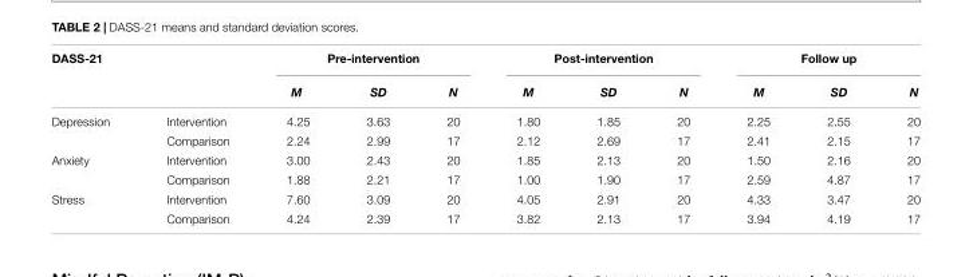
<table><thead><tr><td colspan="2">DASS-21</td><td colspan="3">Pre-intervention</td><td colspan="3">Post-intervention</td><td colspan="3">Follow up</td></tr><tr><td></td><td></td><td>M</td><td>SD</td><td>N</td><td>M</td><td>SD</td><td>N</td><td>M</td><td>SD</td><td>N</td></tr></thead><tbody><tr><td rowspan="2">Depression</td><td>Intervention</td><td>4.25</td><td>3.63</td><td>20</td><td>1.80</td><td>1.85</td><td>20</td><td>2.25</td><td>2.55</td><td>20</td></tr><tr><td>Comparison</td><td>2.24</td><td>2.99</td><td>17</td><td>2.12</td><td>2.69</td><td>17</td><td>2.41</td><td>2.15</td><td>17</td></tr><tr><td rowspan="2">Anxiety</td><td>Intervention</td><td>3.00</td><td>2.43</td><td>20</td><td>1.85</td><td>2.13</td><td>20</td><td>1.50</td><td>2.16</td><td>20</td></tr><tr><td>Comparison</td><td>1.88</td><td>2.21</td><td>17</td><td>1.00</td><td>1.90</td><td>17</td><td>2.59</td><td>4.87</td><td>17</td></tr><tr><td rowspan="2">Stress</td><td>Intervention</td><td>7.60</td><td>3.09</td><td>20</td><td>4.05</td><td>2.91</td><td>20</td><td>4.33</td><td>3.47</td><td>20</td></tr><tr><td>Comparison</td><td>4.24</td><td>2.39</td><td>17</td><td>3.82</td><td>2.13</td><td>17</td><td>3.94</td><td>4.19</td><td>17</td></tr></tbody></table>